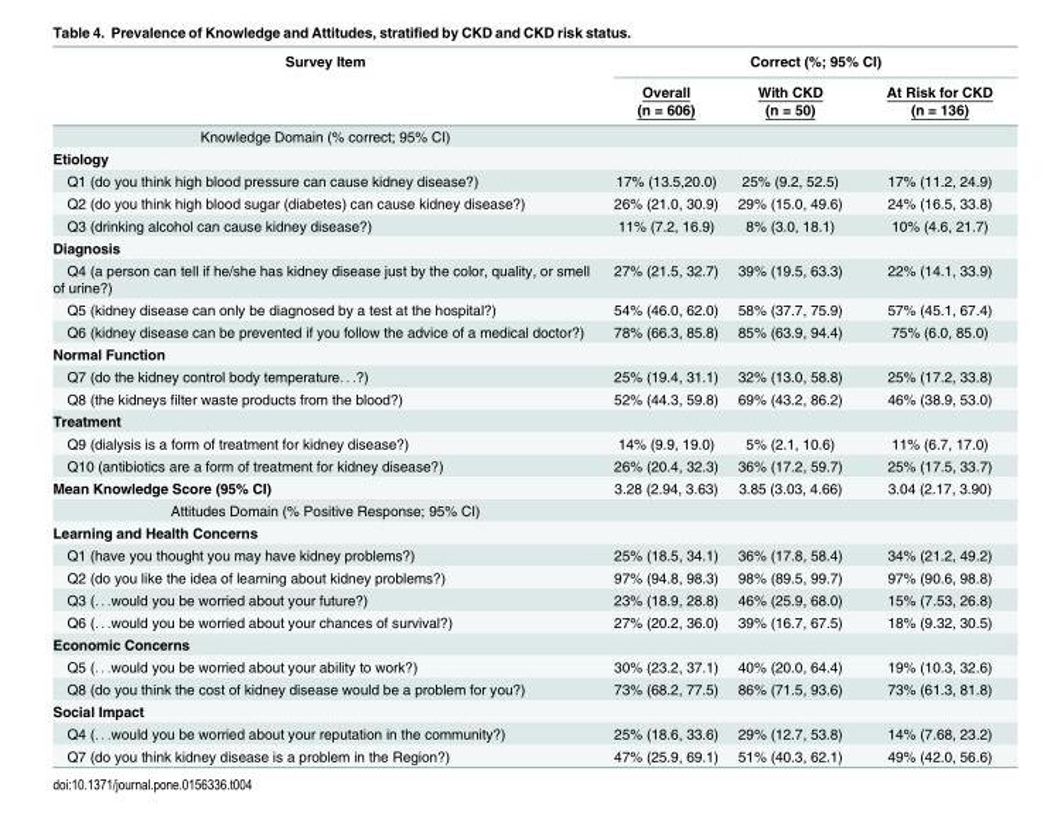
<table><thead><tr><td rowspan="2">Survey Item</td><td colspan="3">Correct (%; 95% CI)</td></tr><tr><td>Overall (n = 606)</td><td>With CKD (n = 50)</td><td>At Risk for CKD (n = 136)</td></tr></thead><tbody><tr><td colspan="4">Knowledge Domain (% correct; 95% CI)</td></tr><tr><td colspan="4">Etiology</td></tr><tr><td>Q1 (do you think high blood pressure can cause kidney disease?)</td><td>17% (13.5,20.0)</td><td>25% (9.2, 52.5)</td><td>17% (11.2, 24.9)</td></tr><tr><td>Q2 (do you think high blood sugar (diabetes) can cause kidney disease?)</td><td>26% (21.0, 30.9)</td><td>29% (15.0, 49.6)</td><td>24% (16.5, 33.8)</td></tr><tr><td>Q3 (drinking alcohol can cause kidney disease?)</td><td>11% (7.2, 16.9)</td><td>8% (3.0, 18.1)</td><td>10% (4.6, 21.7)</td></tr><tr><td colspan="4">Diagnosis</td></tr><tr><td>Q4 (a person can tell if he/she has kidney disease just by the color, quality, or smell of urine?)</td><td>27% (21.5, 32.7)</td><td>39% (19.5, 63.3)</td><td>22% (14.1, 33.9)</td></tr><tr><td>Q5 (kidney disease can only be diagnosed by a test at the hospital?)</td><td>54% (46.0, 62.0)</td><td>58% (37.7, 75.9)</td><td>57% (45.1, 67.4)</td></tr><tr><td>Q6 (kidney disease can be prevented if you follow the advice of a medical doctor?)</td><td>78% (66.3, 85.8)</td><td>85% (63.9, 94.4)</td><td>75% (6.0, 85.0)</td></tr><tr><td colspan="4">Normal Function</td></tr><tr><td>Q7 (do the kidney control body temperature. . .?)</td><td>25% (19.4, 31.1)</td><td>32% (13.0, 58.8)</td><td>25% (17.2, 33.8)</td></tr><tr><td>Q8 (the kidneys filter waste products from the blood?)</td><td>52% (44.3, 59.8)</td><td>69% (43.2, 86.2)</td><td>46% (38.9, 53.0)</td></tr><tr><td colspan="4">Treatment</td></tr><tr><td>Q9 (dialysis is a form of treatment for kidney disease?)</td><td>14% (9.9, 19.0)</td><td>5% (2.1, 10.6)</td><td>11% (6.7, 17.0)</td></tr><tr><td>Q10 (antibiotics are a form of treatment for kidney disease?)</td><td>26% (20.4, 32.3)</td><td>36% (17.2, 59.7)</td><td>25% (17.5, 33.7)</td></tr><tr><td>Mean Knowledge Score (95% CI)</td><td>3.28 (2.94, 3.63)</td><td>3.85 (3.03, 4.66)</td><td>3.04 (2.17, 3.90)</td></tr><tr><td colspan="4">Attitudes Domain (% Positive Response; 95% CI)</td></tr><tr><td colspan="4">Learning and Health Concerns</td></tr><tr><td>Q1 (have you thought you may have kidney problems?)</td><td>25% (18.5, 34.1)</td><td>36% (17.8, 58.4)</td><td>34% (21.2, 49.2)</td></tr><tr><td>Q2 (do you like the idea of learning about kidney problems?)</td><td>97% (94.8, 98.3)</td><td>98% (89.5, 99.7)</td><td>97% (90.6, 98.8)</td></tr><tr><td>Q3 (. . .would you be worried about your future?)</td><td>23% (18.9, 28.8)</td><td>46% (25.9, 68.0)</td><td>15% (7.53, 26.8)</td></tr><tr><td>Q6 (. . .would you be worried about your chances of survival?)</td><td>27% (20.2, 36.0)</td><td>39% (16.7, 67.5)</td><td>18% (9.32, 30.5)</td></tr><tr><td colspan="4">Economic Concerns</td></tr><tr><td>Q5 (. . .would you be worried about your ability to work?)</td><td>30% (23.2, 37.1)</td><td>40% (20.0, 64.4)</td><td>19% (10.3, 32.6)</td></tr><tr><td>Q8 (do you think the cost of kidney disease would be a problem for you?)</td><td>73% (68.2, 77.5)</td><td>86% (71.5, 93.6)</td><td>73% (61.3, 81.8)</td></tr><tr><td colspan="4">Social Impact</td></tr><tr><td>Q4 (. . .would you be worried about your reputation in the community?)</td><td>25% (18.6, 33.6)</td><td>29% (12.7, 53.8)</td><td>14% (7.68, 23.2)</td></tr><tr><td>Q7 (do you think kidney disease is a problem in the Region?)</td><td>47% (25.9, 69.1)</td><td>51% (40.3, 62.1)</td><td>49% (42.0, 56.6)</td></tr></tbody></table>